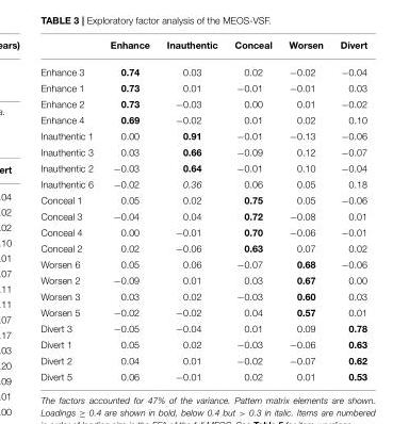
<table><thead><tr><td></td><td>Enhance</td><td>Inauthentic</td><td>Conceal</td><td>Worsen</td><td>Divert</td></tr></thead><tbody><tr><td>Enhance 3</td><td>0.74</td><td>0.03</td><td>0.02</td><td>−0.02</td><td>−0.04</td></tr><tr><td>Enhance 1</td><td>0.73</td><td>0.01</td><td>−0.01</td><td>−0.01</td><td>0.03</td></tr><tr><td>Enhance 2</td><td>0.73</td><td>−0.03</td><td>0.00</td><td>0.01</td><td>−0.02</td></tr><tr><td>Enhance 4</td><td>0.69</td><td>−0.02</td><td>0.01</td><td>0.02</td><td>0.10</td></tr><tr><td>Inauthentic 1</td><td>0.00</td><td>0.91</td><td>−0.01</td><td>−0.13</td><td>−0.06</td></tr><tr><td>Inauthentic 3</td><td>0.03</td><td>0.66</td><td>−0.09</td><td>0.12</td><td>−0.07</td></tr><tr><td>Inauthentic 2</td><td>−0.03</td><td>0.64</td><td>−0.01</td><td>0.10</td><td>−0.04</td></tr><tr><td>Inauthentic 6</td><td>−0.02</td><td>0.36</td><td>0.06</td><td>0.05</td><td>0.18</td></tr><tr><td>Conceal 1</td><td>0.05</td><td>0.02</td><td>0.75</td><td>0.05</td><td>−0.06</td></tr><tr><td>Conceal 3</td><td>−0.04</td><td>0.04</td><td>0.72</td><td>−0.08</td><td>0.01</td></tr><tr><td>Conceal 4</td><td>0.00</td><td>−0.01</td><td>0.70</td><td>−0.06</td><td>−0.01</td></tr><tr><td>Conceal 2</td><td>0.02</td><td>−0.06</td><td>0.63</td><td>0.07</td><td>0.02</td></tr><tr><td>Worsen 6</td><td>0.05</td><td>0.06</td><td>−0.07</td><td>0.68</td><td>−0.06</td></tr><tr><td>Worsen 2</td><td>−0.09</td><td>0.01</td><td>0.03</td><td>0.67</td><td>0.00</td></tr><tr><td>Worsen 3</td><td>0.03</td><td>0.02</td><td>−0.03</td><td>0.60</td><td>0.03</td></tr><tr><td>Worsen 5</td><td>−0.02</td><td>−0.02</td><td>0.04</td><td>0.57</td><td>0.01</td></tr><tr><td>Divert 3</td><td>−0.05</td><td>−0.04</td><td>0.01</td><td>0.09</td><td>0.78</td></tr><tr><td>Divert 1</td><td>0.05</td><td>0.02</td><td>−0.03</td><td>−0.06</td><td>0.63</td></tr><tr><td>Divert 2</td><td>0.04</td><td>0.01</td><td>−0.02</td><td>−0.07</td><td>0.62</td></tr><tr><td>Divert 5</td><td>0.06</td><td>−0.01</td><td>0.02</td><td>0.01</td><td>0.53</td></tr></tbody></table>